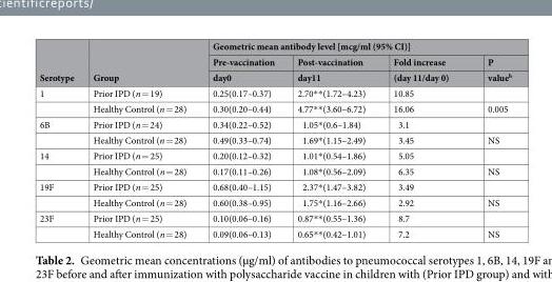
<table><thead><tr><td rowspan="3">Serotype</td><td rowspan="3">Group</td><td colspan="4">Geometric mean antibody level [mcg/ml (95% CI)]</td></tr><tr><td rowspan="2">Pre-vaccination day0</td><td rowspan="2">Post-vaccination day11</td><td rowspan="2">Fold increase (day 11/day 0)</td><td rowspan="2">P value<sup>b</sup></td></tr><tr></tr></thead><tbody><tr><td rowspan="2">1</td><td>Prior IPD (n = 19)</td><td>0.25(0.17–0.37)</td><td>2.70**(1.72–4.23)</td><td>10.85</td><td></td></tr><tr><td>Healthy Control (n = 28)</td><td>0.30(0.20–0.44)</td><td>4.77**(3.60–6.72)</td><td>16.06</td><td>0.005</td></tr><tr><td rowspan="2">6B</td><td>Prior IPD (n = 24)</td><td>0.34(0.22–0.52)</td><td>1.05*(0.6–1.84)</td><td>3.1</td><td></td></tr><tr><td>Healthy Control (n = 28)</td><td>0.49(0.33–0.74)</td><td>1.69*(1.15–2.49)</td><td>3.45</td><td>NS</td></tr><tr><td rowspan="2">14</td><td>Prior IPD (n = 25)</td><td>0.20(0.12–0.32)</td><td>1.01*(0.54–1.86)</td><td>5.05</td><td></td></tr><tr><td>Healthy Control (n = 28)</td><td>0.17(0.11–0.26)</td><td>1.08*(0.56–2.09)</td><td>6.35</td><td>NS</td></tr><tr><td rowspan="2">19F</td><td>Prior IPD (n = 25)</td><td>0.68(0.40–1.15)</td><td>2.37*(1.47–3.82)</td><td>3.49</td><td></td></tr><tr><td>Healthy Control (n = 28)</td><td>0.60(0.38–0.95)</td><td>1.75*(1.16–2.66)</td><td>2.92</td><td>NS</td></tr><tr><td rowspan="2">23F</td><td>Prior IPD (n = 25)</td><td>0.10(0.06–0.16)</td><td>0.87**(0.55–1.36)</td><td>8.7</td><td></td></tr><tr><td>Healthy Control (n = 28)</td><td>0.09(0.06–0.13)</td><td>0.65**(0.42–1.01)</td><td>7.2</td><td>NS</td></tr></tbody></table>